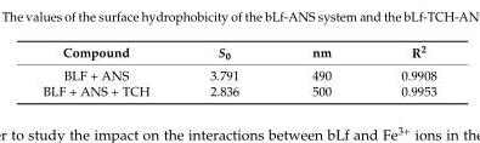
<table><thead><tr><td>Compound</td><td>S<sub>0</sub></td><td>nm</td><td>R<sup>2</sup></td></tr></thead><tbody><tr><td>BLF + ANS</td><td>3.791</td><td>490</td><td>0.9908</td></tr><tr><td>BLF + ANS + TCH</td><td>2.836</td><td>500</td><td>0.9953</td></tr></tbody></table>